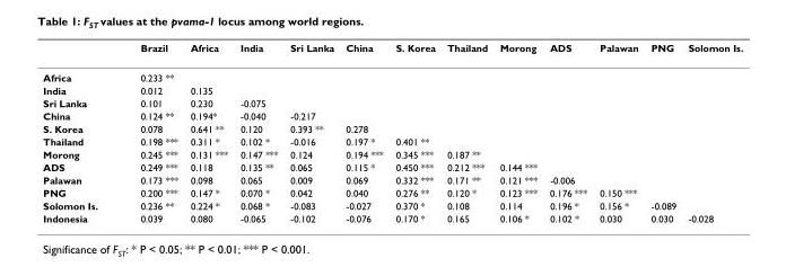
<table><thead><tr><td></td><td>Brazil</td><td>Africa</td><td>India</td><td>Sri Lanka</td><td>China</td><td>S. Korea</td><td>Thailand</td><td>Morong</td><td>ADS</td><td>Palawan</td><td>PNG</td><td>Solomon Is.</td></tr></thead><tbody><tr><td>Africa</td><td>0.233 **</td><td></td><td></td><td></td><td></td><td></td><td></td><td></td><td></td><td></td><td></td><td></td></tr><tr><td>India</td><td>0.012</td><td>0.135</td><td></td><td></td><td></td><td></td><td></td><td></td><td></td><td></td><td></td><td></td></tr><tr><td>Sri Lanka</td><td>0.101</td><td>0.230</td><td>-0.075</td><td></td><td></td><td></td><td></td><td></td><td></td><td></td><td></td><td></td></tr><tr><td>China</td><td>0.124 **</td><td>0.194*</td><td>-0.040</td><td>-0.217</td><td></td><td></td><td></td><td></td><td></td><td></td><td></td><td></td></tr><tr><td>S. Korea</td><td>0.078</td><td>0.641 **</td><td>0.120</td><td>0.393 **</td><td>0.278</td><td></td><td></td><td></td><td></td><td></td><td></td><td></td></tr><tr><td>Thailand</td><td>0.198 ***</td><td>0.311 *</td><td>0.102 *</td><td>-0.016</td><td>0.197 *</td><td>0.401 **</td><td></td><td></td><td></td><td></td><td></td><td></td></tr><tr><td>Morong</td><td>0.245 ***</td><td>0.131 ***</td><td>0.147 ***</td><td>0.124</td><td>0.194 ***</td><td>0.345 ***</td><td>0.187 **</td><td></td><td></td><td></td><td></td><td></td></tr><tr><td>ADS</td><td>0.249 ***</td><td>0.118</td><td>0.135 **</td><td>0.065</td><td>0.115 *</td><td>0.450 ***</td><td>0.212 ***</td><td>0.144 ***</td><td></td><td></td><td></td><td></td></tr><tr><td>Palawan</td><td>0.173 ***</td><td>0.098</td><td>0.065</td><td>0.009</td><td>0.069</td><td>0.332 ***</td><td>0.171 **</td><td>0.121 ***</td><td>-0.006</td><td></td><td></td><td></td></tr><tr><td>PNG</td><td>0.200 ***</td><td>0.147 *</td><td>0.070 *</td><td>0.042</td><td>0.040</td><td>0.276 **</td><td>0.120 *</td><td>0.123 ***</td><td>0.176 ***</td><td>0.150 ***</td><td></td><td></td></tr><tr><td>Solomon Is.</td><td>0.236 **</td><td>0.224 *</td><td>0.068 *</td><td>-0.083</td><td>-0.027</td><td>0.370 *</td><td>0.108</td><td>0.114</td><td>0.196 *</td><td>0.156 *</td><td>-0.089</td><td></td></tr><tr><td>Indonesia</td><td>0.039</td><td>0.080</td><td>-0.065</td><td>-0.102</td><td>-0.076</td><td>0.170 *</td><td>0.165</td><td>0.106 *</td><td>0.102 *</td><td>0.030</td><td>0.030</td><td>-0.028</td></tr></tbody></table>